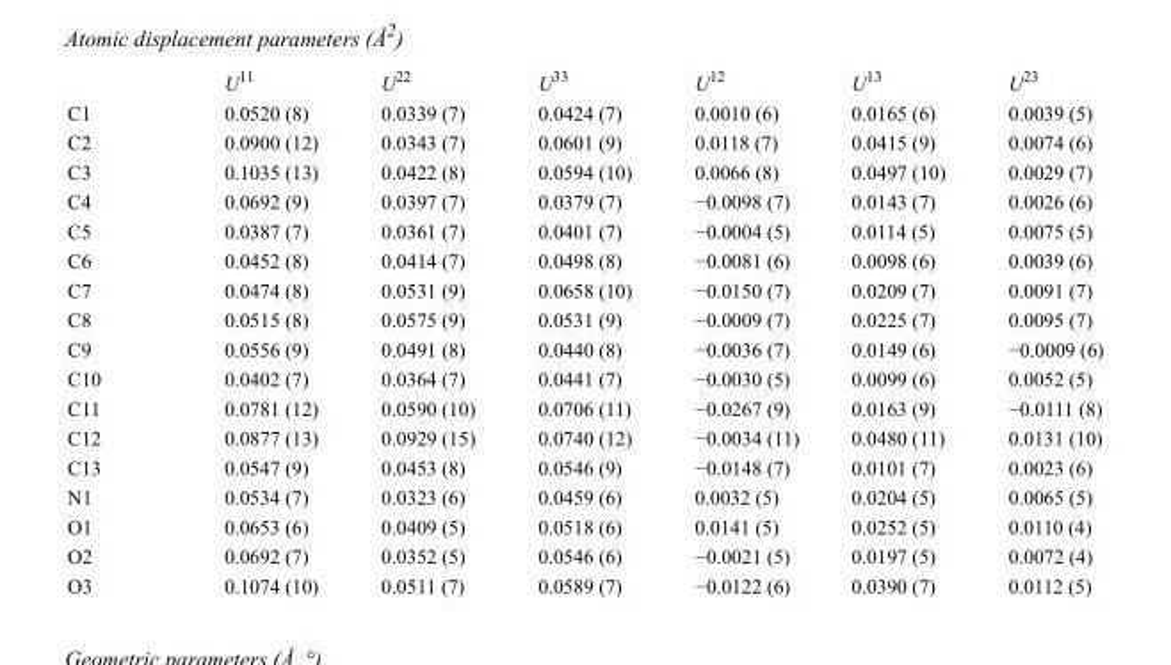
<table><thead><tr><td></td><td>U<sup>11</sup></td><td>U<sup>22</sup></td><td>U<sup>33</sup></td><td>U<sup>12</sup></td><td>U<sup>13</sup></td><td>U<sup>23</sup></td></tr></thead><tbody><tr><td>C1</td><td>0.0520 (8)</td><td>0.0339 (7)</td><td>0.0424 (7)</td><td>0.0010 (6)</td><td>0.0165 (6)</td><td>0.0039 (5)</td></tr><tr><td>C2</td><td>0.0900 (12)</td><td>0.0343 (7)</td><td>0.0601 (9)</td><td>0.0118 (7)</td><td>0.0415 (9)</td><td>0.0074 (6)</td></tr><tr><td>C3</td><td>0.1035 (13)</td><td>0.0422 (8)</td><td>0.0594 (10)</td><td>0.0066 (8)</td><td>0.0497 (10)</td><td>0.0029 (7)</td></tr><tr><td>C4</td><td>0.0692 (9)</td><td>0.0397 (7)</td><td>0.0379 (7)</td><td>−0.0098 (7)</td><td>0.0143 (7)</td><td>0.0026 (6)</td></tr><tr><td>C5</td><td>0.0387 (7)</td><td>0.0361 (7)</td><td>0.0401 (7)</td><td>−0.0004 (5)</td><td>0.0114 (5)</td><td>0.0075 (5)</td></tr><tr><td>C6</td><td>0.0452 (8)</td><td>0.0414 (7)</td><td>0.0498 (8)</td><td>−0.0081 (6)</td><td>0.0098 (6)</td><td>0.0039 (6)</td></tr><tr><td>C7</td><td>0.0474 (8)</td><td>0.0531 (9)</td><td>0.0658 (10)</td><td>−0.0150 (7)</td><td>0.0209 (7)</td><td>0.0091 (7)</td></tr><tr><td>C8</td><td>0.0515 (8)</td><td>0.0575 (9)</td><td>0.0531 (9)</td><td>−0.0009 (7)</td><td>0.0225 (7)</td><td>0.0095 (7)</td></tr><tr><td>C9</td><td>0.0556 (9)</td><td>0.0491 (8)</td><td>0.0440 (8)</td><td>−0.0036 (7)</td><td>0.0149 (6)</td><td>−0.0009 (6)</td></tr><tr><td>C10</td><td>0.0402 (7)</td><td>0.0364 (7)</td><td>0.0441 (7)</td><td>−0.0030 (5)</td><td>0.0099 (6)</td><td>0.0052 (5)</td></tr><tr><td>C11</td><td>0.0781 (12)</td><td>0.0590 (10)</td><td>0.0706 (11)</td><td>−0.0267 (9)</td><td>0.0163 (9)</td><td>−0.0111 (8)</td></tr><tr><td>C12</td><td>0.0877 (13)</td><td>0.0929 (15)</td><td>0.0740 (12)</td><td>−0.0034 (11)</td><td>0.0480 (11)</td><td>0.0131 (10)</td></tr><tr><td>C13</td><td>0.0547 (9)</td><td>0.0453 (8)</td><td>0.0546 (9)</td><td>−0.0148 (7)</td><td>0.0101 (7)</td><td>0.0023 (6)</td></tr><tr><td>N1</td><td>0.0534 (7)</td><td>0.0323 (6)</td><td>0.0459 (6)</td><td>0.0032 (5)</td><td>0.0204 (5)</td><td>0.0065 (5)</td></tr><tr><td>O1</td><td>0.0653 (6)</td><td>0.0409 (5)</td><td>0.0518 (6)</td><td>0.0141 (5)</td><td>0.0252 (5)</td><td>0.0110 (4)</td></tr><tr><td>O2</td><td>0.0692 (7)</td><td>0.0352 (5)</td><td>0.0546 (6)</td><td>−0.0021 (5)</td><td>0.0197 (5)</td><td>0.0072 (4)</td></tr><tr><td>O3</td><td>0.1074 (10)</td><td>0.0511 (7)</td><td>0.0589 (7)</td><td>−0.0122 (6)</td><td>0.0390 (7)</td><td>0.0112 (5)</td></tr></tbody></table>